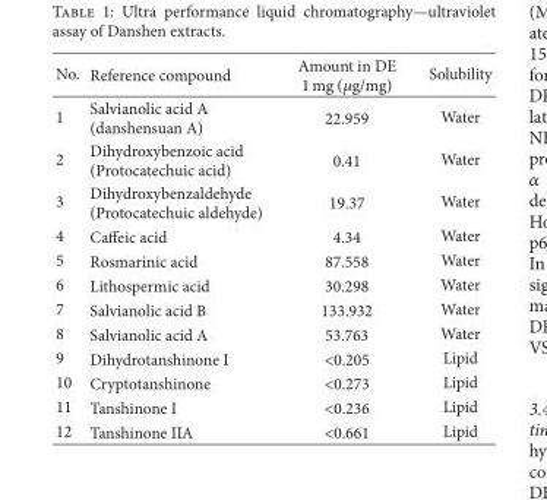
<table><thead><tr><td>No.</td><td>Reference compound</td><td>Amount in DE 1 mg (𝜇𝜇g/mg)</td><td>Solubility</td></tr></thead><tbody><tr><td>1</td><td>Salvianolic acid A (danshensuan A)</td><td>22.959</td><td>Water</td></tr><tr><td>2</td><td>Dihydroxybenzoic acid (Protocatechuic acid)</td><td>0.41</td><td>Water</td></tr><tr><td>3</td><td>Dihydroxybenzaldehyde (Protocatechuic aldehyde)</td><td>19.37</td><td>Water</td></tr><tr><td>4</td><td>Caffeic acid</td><td>4.34</td><td>Water</td></tr><tr><td>5</td><td>Rosmarinic acid</td><td>87.558</td><td>Water</td></tr><tr><td>6</td><td>Lithospermic acid</td><td>30.298</td><td>Water</td></tr><tr><td>7</td><td>Salvianolic acid B</td><td>133.932</td><td>Water</td></tr><tr><td>8</td><td>Salvianolic acid A</td><td>53.763</td><td>Water</td></tr><tr><td>9</td><td>Dihydrotanshinone I</td><td>&lt;0.205</td><td>Lipid</td></tr><tr><td>10</td><td>Cryptotanshinone</td><td>&lt;0.273</td><td>Lipid</td></tr><tr><td>11</td><td>Tanshinone I</td><td>&lt;0.236</td><td>Lipid</td></tr><tr><td>12</td><td>Tanshinone IIA</td><td>&lt;0.661</td><td>Lipid</td></tr></tbody></table>